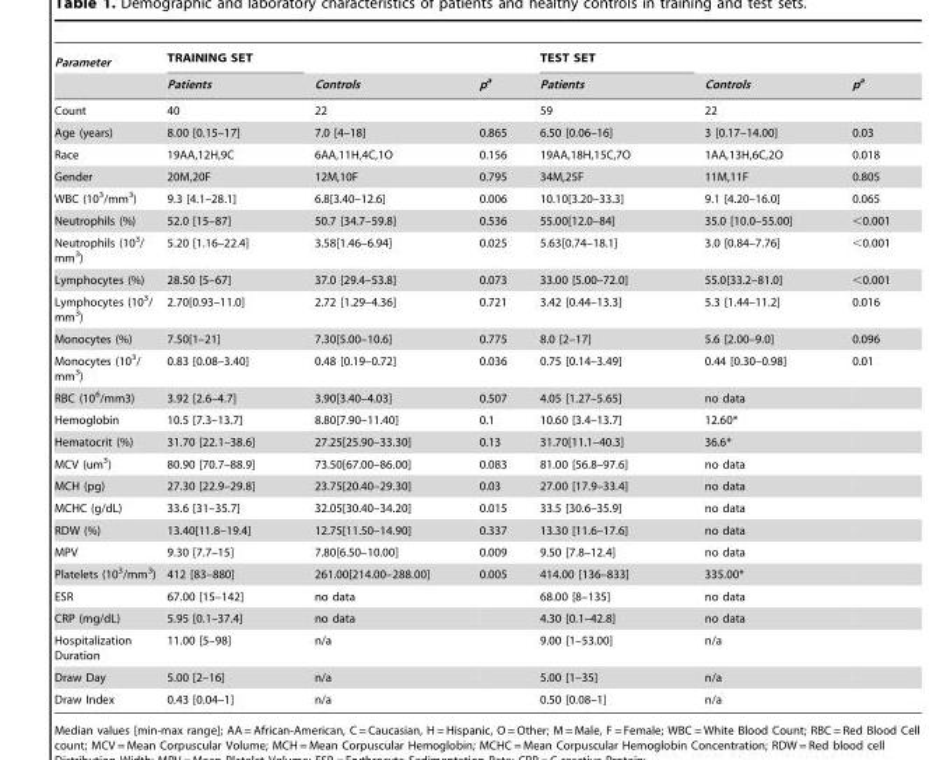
<table><thead><tr><td rowspan="2">Parameter</td><td rowspan="2">TRAINING SET Patients</td><td rowspan="2">Controls</td><td rowspan="2">p<sup>a</sup></td><td rowspan="2">TEST SET Patients</td><td rowspan="2">Controls</td><td rowspan="2">p<sup>a</sup></td></tr><tr></tr></thead><tbody><tr><td>Count</td><td>40</td><td>22</td><td></td><td>59</td><td>22</td><td></td></tr><tr><td>Age (years)</td><td>8.00 [0.15–17]</td><td>7.0 [4–18]</td><td>0.865</td><td>6.50 [0.06–16]</td><td>3 [0.17–14.00]</td><td>0.03</td></tr><tr><td>Race</td><td>19AA,12H,9C</td><td>6AA,11H,4C,1O</td><td>0.156</td><td>19AA,18H,15C,7O</td><td>1AA,13H,6C,2O</td><td>0.018</td></tr><tr><td>Gender</td><td>20M,20F</td><td>12M,10F</td><td>0.795</td><td>34M,25F</td><td>11M,11F</td><td>0.805</td></tr><tr><td>WBC (10<sup>3</sup>/mm<sup>3</sup>)</td><td>9.3 [4.1–28.1]</td><td>6.8[3.40–12.6]</td><td>0.006</td><td>10.10[3.20–33.3]</td><td>9.1 [4.20–16.0]</td><td>0.065</td></tr><tr><td>Neutrophils (%)</td><td>52.0 [15–87]</td><td>50.7 [34.7–59.8]</td><td>0.536</td><td>55.00[12.0–84]</td><td>35.0 [10.0–55.00]</td><td>&lt;0.001</td></tr><tr><td>Neutrophils (10<sup>3</sup>/ mm<sup>3</sup>)</td><td>5.20 [1.16–22.4]</td><td>3.58[1.46–6.94]</td><td>0.025</td><td>5.63[0.74–18.1]</td><td>3.0 [0.84–7.76]</td><td>&lt;0.001</td></tr><tr><td>Lymphocytes (%)</td><td>28.50 [5–67]</td><td>37.0 [29.4–53.8]</td><td>0.073</td><td>33.00 [5.00–72.0]</td><td>55.0[33.2–81.0]</td><td>&lt;0.001</td></tr><tr><td>Lymphocytes (10<sup>3</sup>/ mm<sup>3</sup>)</td><td>2.70[0.93–11.0]</td><td>2.72 [1.29–4.36]</td><td>0.721</td><td>3.42 [0.44–13.3]</td><td>5.3 [1.44–11.2]</td><td>0.016</td></tr><tr><td>Monocytes (%)</td><td>7.50[1–21]</td><td>7.30[5.00–10.6]</td><td>0.775</td><td>8.0 [2–17]</td><td>5.6 [2.00–9.0]</td><td>0.096</td></tr><tr><td>Monocytes (10<sup>3</sup>/ mm<sup>3</sup>)</td><td>0.83 [0.08–3.40]</td><td>0.48 [0.19–0.72]</td><td>0.036</td><td>0.75 [0.14–3.49]</td><td>0.44 [0.30–0.98]</td><td>0.01</td></tr><tr><td>RBC (10<sup>6</sup>/mm3)</td><td>3.92 [2.6–4.7]</td><td>3.90[3.40–4.03]</td><td>0.507</td><td>4.05 [1.27–5.65]</td><td>no data</td><td></td></tr><tr><td>Hemoglobin</td><td>10.5 [7.3–13.7]</td><td>8.80[7.90–11.40]</td><td>0.1</td><td>10.60 [3.4–13.7]</td><td>12.60*</td><td></td></tr><tr><td>Hematocrit (%)</td><td>31.70 [22.1–38.6]</td><td>27.25[25.90–33.30]</td><td>0.13</td><td>31.70[11.1–40.3]</td><td>36.6*</td><td></td></tr><tr><td>MCV (um<sup>3</sup>)</td><td>80.90 [70.7–88.9]</td><td>73.50[67.00–86.00]</td><td>0.083</td><td>81.00 [56.8–97.6]</td><td>no data</td><td></td></tr><tr><td>MCH (pg)</td><td>27.30 [22.9–29.8]</td><td>23.75[20.40–29.30]</td><td>0.03</td><td>27.00 [17.9–33.4]</td><td>no data</td><td></td></tr><tr><td>MCHC (g/dL)</td><td>33.6 [31–35.7]</td><td>32.05[30.40–34.20]</td><td>0.015</td><td>33.5 [30.6–35.9]</td><td>no data</td><td></td></tr><tr><td>RDW (%)</td><td>13.40[11.8–19.4]</td><td>12.75[11.50–14.90]</td><td>0.337</td><td>13.30 [11.6–17.6]</td><td>no data</td><td></td></tr><tr><td>MPV</td><td>9.30 [7.7–15]</td><td>7.80[6.50–10.00]</td><td>0.009</td><td>9.50 [7.8–12.4]</td><td>no data</td><td></td></tr><tr><td>Platelets (10<sup>3</sup>/mm<sup>3</sup>)</td><td>412 [83–880]</td><td>261.00[214.00–288.00]</td><td>0.005</td><td>414.00 [136–833]</td><td>335.00*</td><td></td></tr><tr><td>ESR</td><td>67.00 [15–142]</td><td>no data</td><td></td><td>68.00 [8–135]</td><td>no data</td><td></td></tr><tr><td>CRP (mg/dL)</td><td>5.95 [0.1–37.4]</td><td>no data</td><td></td><td>4.30 [0.1–42.8]</td><td>no data</td><td></td></tr><tr><td>Hospitalization Duration</td><td>11.00 [5–98]</td><td>n/a</td><td></td><td>9.00 [1–53.00]</td><td>n/a</td><td></td></tr><tr><td>Draw Day</td><td>5.00 [2–16]</td><td>n/a</td><td></td><td>5.00 [1–35]</td><td>n/a</td><td></td></tr><tr><td>Draw Index</td><td>0.43 [0.04–1]</td><td>n/a</td><td></td><td>0.50 [0.08–1]</td><td>n/a</td><td></td></tr></tbody></table>